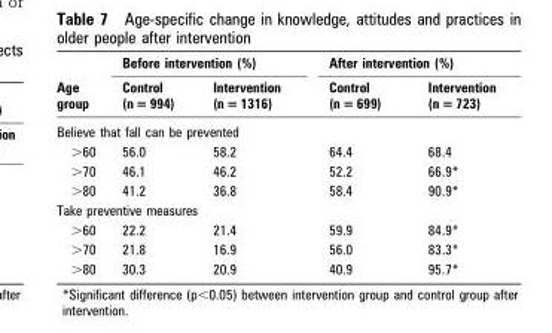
<table><thead><tr><td rowspan="2">Age group</td><td colspan="2">Before intervention (%)</td><td colspan="2">After intervention (%)</td></tr><tr><td>Control (n = 994)</td><td>Intervention (n = 1316)</td><td>Control (n = 699)</td><td>Intervention (n = 723)</td></tr></thead><tbody><tr><td colspan="5">Believe that fall can be prevented</td></tr><tr><td>&gt;60</td><td>56.0</td><td>58.2</td><td>64.4</td><td>68.4</td></tr><tr><td>&gt;70</td><td>46.1</td><td>46.2</td><td>52.2</td><td>66.9*</td></tr><tr><td>&gt;80</td><td>41.2</td><td>36.8</td><td>58.4</td><td>90.9*</td></tr><tr><td colspan="5">Take preventive measures</td></tr><tr><td>&gt;60</td><td>22.2</td><td>21.4</td><td>59.9</td><td>84.9*</td></tr><tr><td>&gt;70</td><td>21.8</td><td>16.9</td><td>56.0</td><td>83.3*</td></tr><tr><td>&gt;80</td><td>30.3</td><td>20.9</td><td>40.9</td><td>95.7*</td></tr></tbody></table>